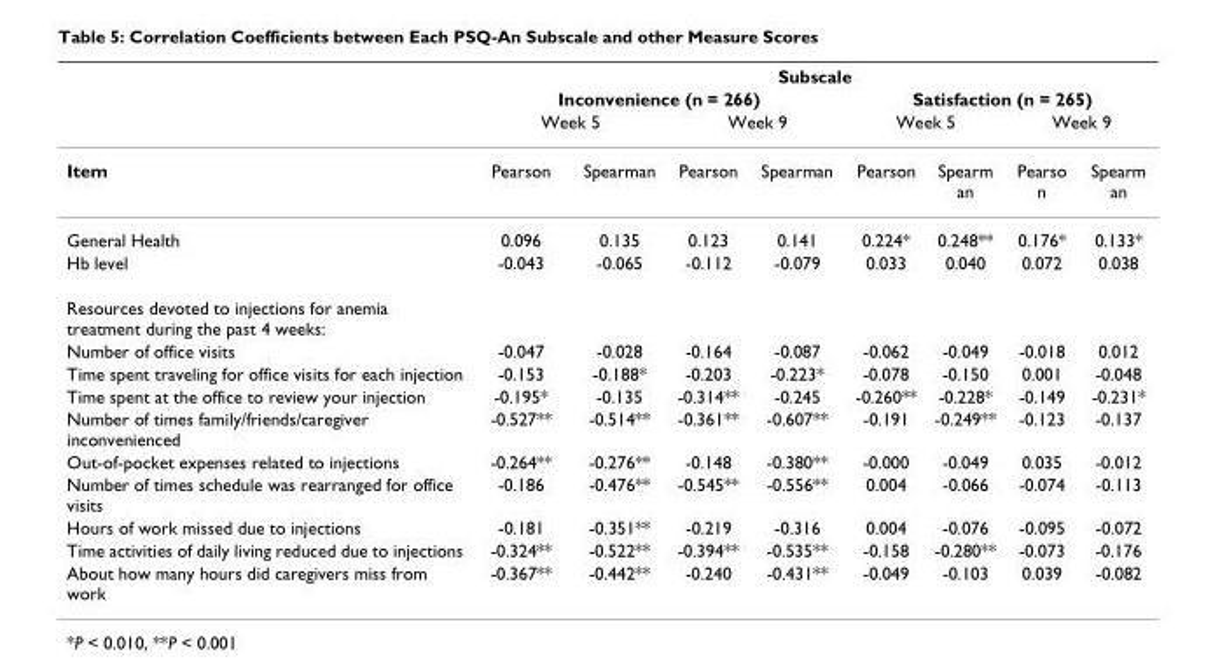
<table><thead><tr><td rowspan="4">Item</td><td colspan="8">Subscale</td></tr><tr><td colspan="4">Inconvenience (n = 266)</td><td colspan="4">Satisfaction (n = 265)</td></tr><tr><td colspan="2">Week 5</td><td colspan="2">Week 9</td><td colspan="2">Week 5</td><td colspan="2">Week 9</td></tr><tr><td>Pearson</td><td>Spearman</td><td>Pearson</td><td>Spearman</td><td>Pearson</td><td>Spearm an</td><td>Pearso n</td><td>Spearm an</td></tr></thead><tbody><tr><td>General Health</td><td>0.096</td><td>0.135</td><td>0.123</td><td>0.141</td><td>0.224*</td><td>0.248**</td><td>0.176*</td><td>0.133*</td></tr><tr><td>Hb level</td><td>-0.043</td><td>-0.065</td><td>-0.112</td><td>-0.079</td><td>0.033</td><td>0.040</td><td>0.072</td><td>0.038</td></tr><tr><td colspan="9">Resources devoted to injections for anemia treatment during the past 4 weeks:</td></tr><tr><td>Number of office visits</td><td>-0.047</td><td>-0.028</td><td>-0.164</td><td>-0.087</td><td>-0.062</td><td>-0.049</td><td>-0.018</td><td>0.012</td></tr><tr><td>Time spent traveling for office visits for each injection</td><td>-0.153</td><td>-0.188*</td><td>-0.203</td><td>-0.223*</td><td>-0.078</td><td>-0.150</td><td>0.001</td><td>-0.048</td></tr><tr><td>Time spent at the office to review your injection</td><td>-0.195*</td><td>-0.135</td><td>-0.314**</td><td>-0.245</td><td>-0.260**</td><td>-0.228*</td><td>-0.149</td><td>-0.231*</td></tr><tr><td>Number of times family/friends/caregiver inconvenienced</td><td>-0.527**</td><td>-0.514**</td><td>-0.361**</td><td>-0.607**</td><td>-0.191</td><td>-0.249**</td><td>-0.123</td><td>-0.137</td></tr><tr><td>Out-of-pocket expenses related to injections</td><td>-0.264**</td><td>-0.276**</td><td>-0.148</td><td>-0.380**</td><td>-0.000</td><td>-0.049</td><td>0.035</td><td>-0.012</td></tr><tr><td>Number of times schedule was rearranged for office visits</td><td>-0.186</td><td>-0.476**</td><td>-0.545**</td><td>-0.556**</td><td>0.004</td><td>-0.066</td><td>-0.074</td><td>-0.113</td></tr><tr><td>Hours of work missed due to injections</td><td>-0.181</td><td>-0.351**</td><td>-0.219</td><td>-0.316</td><td>0.004</td><td>-0.076</td><td>-0.095</td><td>-0.072</td></tr><tr><td>Time activities of daily living reduced due to injections</td><td>-0.324**</td><td>-0.522**</td><td>-0.394**</td><td>-0.535**</td><td>-0.158</td><td>-0.280**</td><td>-0.073</td><td>-0.176</td></tr><tr><td>About how many hours did caregivers miss from work</td><td>-0.367**</td><td>-0.442**</td><td>-0.240</td><td>-0.431**</td><td>-0.049</td><td>-0.103</td><td>0.039</td><td>-0.082</td></tr></tbody></table>